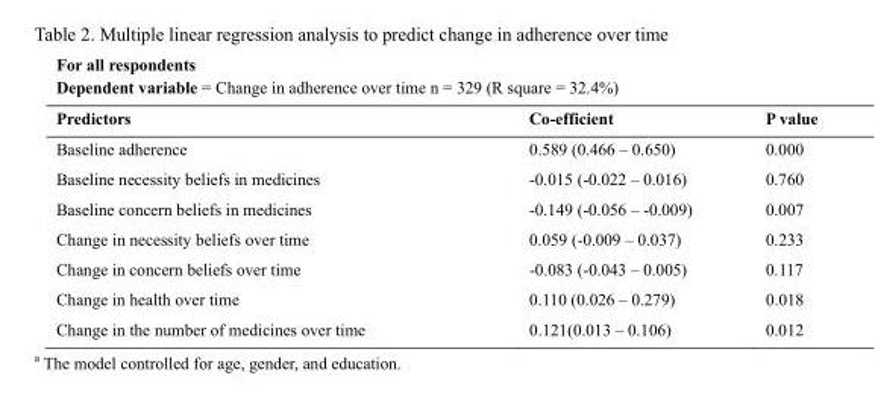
<table><thead><tr><td colspan="3">For all respondents Dependent variable = Change in adherence over time n = 329 (R square = 32.4%)</td></tr><tr><td>Predictors</td><td>Co-efficient</td><td>P value</td></tr></thead><tbody><tr><td>Baseline adherence</td><td>0.589 (0.466 – 0.650)</td><td>0.000</td></tr><tr><td>Baseline necessity beliefs in medicines</td><td>-0.015 (-0.022 – 0.016)</td><td>0.760</td></tr><tr><td>Baseline concern beliefs in medicines</td><td>-0.149 (-0.056 – -0.009)</td><td>0.007</td></tr><tr><td>Change in necessity beliefs over time</td><td>0.059 (-0.009 – 0.037)</td><td>0.233</td></tr><tr><td>Change in concern beliefs over time</td><td>-0.083 (-0.043 – 0.005)</td><td>0.117</td></tr><tr><td>Change in health over time</td><td>0.110 (0.026 – 0.279)</td><td>0.018</td></tr><tr><td>Change in the number of medicines over time</td><td>0.121(0.013 – 0.106)</td><td>0.012</td></tr></tbody></table>